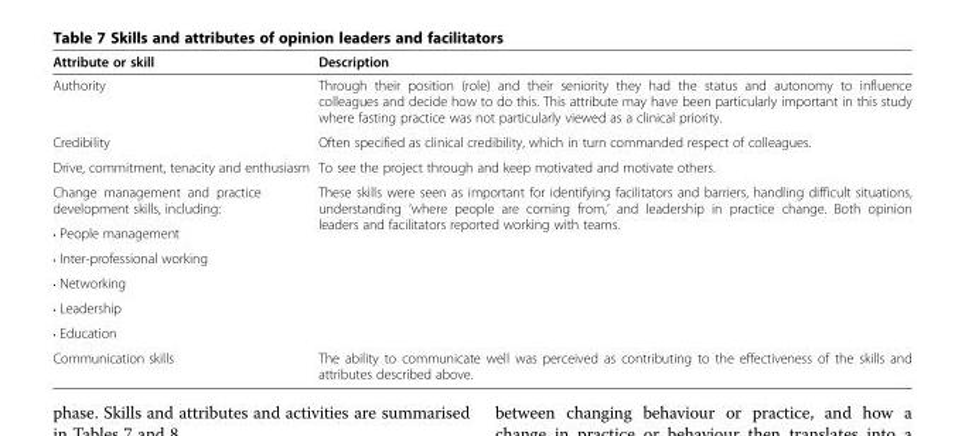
<table><thead><tr><td>Attribute or skill</td><td>Description</td></tr></thead><tbody><tr><td>Authority</td><td>Through their position (role) and their seniority they had the status and autonomy to influence colleagues and decide how to do this. This attribute may have been particularly important in this study where fasting practice was not particularly viewed as a clinical priority.</td></tr><tr><td>Credibility</td><td>Often specified as clinical credibility, which in turn commanded respect of colleagues.</td></tr><tr><td>Drive, commitment, tenacity and enthusiasm</td><td>To see the project through and keep motivated and motivate others.</td></tr><tr><td>Change management and practice development skills, including:</td><td rowspan="6">These skills were seen as important for identifying facilitators and barriers, handling difficult situations, understanding ‘where people are coming from,’ and leadership in practice change. Both opinion leaders and facilitators reported working with teams.</td></tr><tr><td>• People management</td></tr><tr><td>• Inter-professional working</td></tr><tr><td>• Networking</td></tr><tr><td>• Leadership</td></tr><tr><td>• Education</td></tr><tr><td>Communication skills</td><td>The ability to communicate well was perceived as contributing to the effectiveness of the skills and attributes described above.</td></tr></tbody></table>